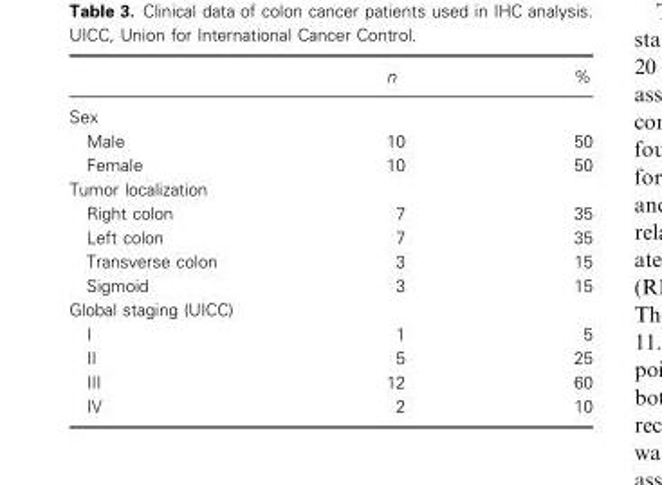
<table><thead><tr><td></td><td>n</td><td>%</td></tr></thead><tbody><tr><td colspan="3">Sex</td></tr><tr><td>Male</td><td>10</td><td>50</td></tr><tr><td>Female</td><td>10</td><td>50</td></tr><tr><td colspan="3">Tumor localization</td></tr><tr><td>Right colon</td><td>7</td><td>35</td></tr><tr><td>Left colon</td><td>7</td><td>35</td></tr><tr><td>Transverse colon</td><td>3</td><td>15</td></tr><tr><td>Sigmoid</td><td>3</td><td>15</td></tr><tr><td colspan="3">Global staging (UICC)</td></tr><tr><td>I</td><td>1</td><td>5</td></tr><tr><td>II</td><td>5</td><td>25</td></tr><tr><td>III</td><td>12</td><td>60</td></tr><tr><td>IV</td><td>2</td><td>10</td></tr></tbody></table>